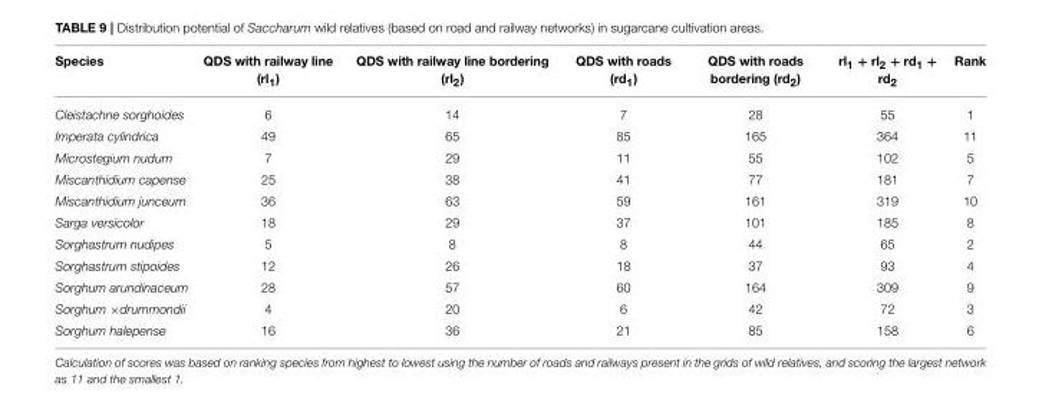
<table><thead><tr><td>Species</td><td>QDS with railway line (rl<sub>1</sub>)</td><td>QDS with railway line bordering (rl<sub>2</sub>)</td><td>QDS with roads (rd<sub>1</sub>)</td><td>QDS with roads bordering (rd<sub>2</sub>)</td><td>rl<sub>1</sub> + rl<sub>2</sub> + rd<sub>1</sub> + rd<sub>2</sub></td><td>Rank</td></tr></thead><tbody><tr><td>Cleistachne sorghoides</td><td>6</td><td>14</td><td>7</td><td>28</td><td>55</td><td>1</td></tr><tr><td>Imperata cylindrica</td><td>49</td><td>65</td><td>85</td><td>165</td><td>364</td><td>11</td></tr><tr><td>Microstegium nudum</td><td>7</td><td>29</td><td>11</td><td>55</td><td>102</td><td>5</td></tr><tr><td>Miscanthidium capense</td><td>25</td><td>38</td><td>41</td><td>77</td><td>181</td><td>7</td></tr><tr><td>Miscanthidium junceum</td><td>36</td><td>63</td><td>59</td><td>161</td><td>319</td><td>10</td></tr><tr><td>Sarga versicolor</td><td>18</td><td>29</td><td>37</td><td>101</td><td>185</td><td>8</td></tr><tr><td>Sorghastrum nudipes</td><td>5</td><td>8</td><td>8</td><td>44</td><td>65</td><td>2</td></tr><tr><td>Sorghastrum stipoides</td><td>12</td><td>26</td><td>18</td><td>37</td><td>93</td><td>4</td></tr><tr><td>Sorghum arundinaceum</td><td>28</td><td>57</td><td>60</td><td>164</td><td>309</td><td>9</td></tr><tr><td>Sorghum ×drummondii</td><td>4</td><td>20</td><td>6</td><td>42</td><td>72</td><td>3</td></tr><tr><td>Sorghum halepense</td><td>16</td><td>36</td><td>21</td><td>85</td><td>158</td><td>6</td></tr></tbody></table>